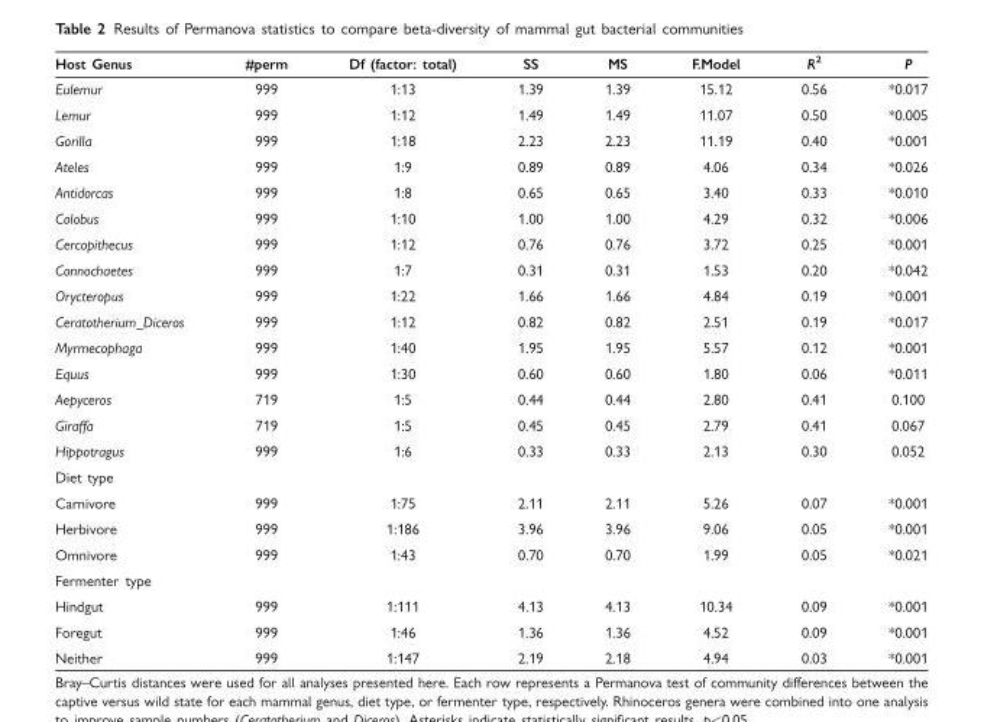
<table><thead><tr><td>Host Genus</td><td>#perm</td><td>Df (factor: total)</td><td>SS</td><td>MS</td><td>F.Model</td><td>R<sup>2</sup></td><td>P</td></tr></thead><tbody><tr><td>Eulemur</td><td>999</td><td>1:13</td><td>1.39</td><td>1.39</td><td>15.12</td><td>0.56</td><td>*0.017</td></tr><tr><td>Lemur</td><td>999</td><td>1:12</td><td>1.49</td><td>1.49</td><td>11.07</td><td>0.50</td><td>*0.005</td></tr><tr><td>Gorilla</td><td>999</td><td>1:18</td><td>2.23</td><td>2.23</td><td>11.19</td><td>0.40</td><td>*0.001</td></tr><tr><td>Ateles</td><td>999</td><td>1:9</td><td>0.89</td><td>0.89</td><td>4.06</td><td>0.34</td><td>*0.026</td></tr><tr><td>Antidorcas</td><td>999</td><td>1:8</td><td>0.65</td><td>0.65</td><td>3.40</td><td>0.33</td><td>*0.010</td></tr><tr><td>Colobus</td><td>999</td><td>1:10</td><td>1.00</td><td>1.00</td><td>4.29</td><td>0.32</td><td>*0.006</td></tr><tr><td>Cercopithecus</td><td>999</td><td>1:12</td><td>0.76</td><td>0.76</td><td>3.72</td><td>0.25</td><td>*0.001</td></tr><tr><td>Connochaetes</td><td>999</td><td>1:7</td><td>0.31</td><td>0.31</td><td>1.53</td><td>0.20</td><td>*0.042</td></tr><tr><td>Orycteropus</td><td>999</td><td>1:22</td><td>1.66</td><td>1.66</td><td>4.84</td><td>0.19</td><td>*0.001</td></tr><tr><td>Ceratotherium_Diceros</td><td>999</td><td>1:12</td><td>0.82</td><td>0.82</td><td>2.51</td><td>0.19</td><td>*0.017</td></tr><tr><td>Myrmecophaga</td><td>999</td><td>1:40</td><td>1.95</td><td>1.95</td><td>5.57</td><td>0.12</td><td>*0.001</td></tr><tr><td>Equus</td><td>999</td><td>1:30</td><td>0.60</td><td>0.60</td><td>1.80</td><td>0.06</td><td>*0.011</td></tr><tr><td>Aepyceros</td><td>719</td><td>1:5</td><td>0.44</td><td>0.44</td><td>2.80</td><td>0.41</td><td>0.100</td></tr><tr><td>Giraffa</td><td>719</td><td>1:5</td><td>0.45</td><td>0.45</td><td>2.79</td><td>0.41</td><td>0.067</td></tr><tr><td>Hippotragus</td><td>999</td><td>1:6</td><td>0.33</td><td>0.33</td><td>2.13</td><td>0.30</td><td>0.052</td></tr><tr><td colspan="8">Diet type</td></tr><tr><td>Carnivore</td><td>999</td><td>1:75</td><td>2.11</td><td>2.11</td><td>5.26</td><td>0.07</td><td>*0.001</td></tr><tr><td>Herbivore</td><td>999</td><td>1:186</td><td>3.96</td><td>3.96</td><td>9.06</td><td>0.05</td><td>*0.001</td></tr><tr><td>Omnivore</td><td>999</td><td>1:43</td><td>0.70</td><td>0.70</td><td>1.99</td><td>0.05</td><td>*0.021</td></tr><tr><td colspan="8">Fermenter type</td></tr><tr><td>Hindgut</td><td>999</td><td>1:111</td><td>4.13</td><td>4.13</td><td>10.34</td><td>0.09</td><td>*0.001</td></tr><tr><td>Foregut</td><td>999</td><td>1:46</td><td>1.36</td><td>1.36</td><td>4.52</td><td>0.09</td><td>*0.001</td></tr><tr><td>Neither</td><td>999</td><td>1:147</td><td>2.19</td><td>2.18</td><td>4.94</td><td>0.03</td><td>*0.001</td></tr></tbody></table>